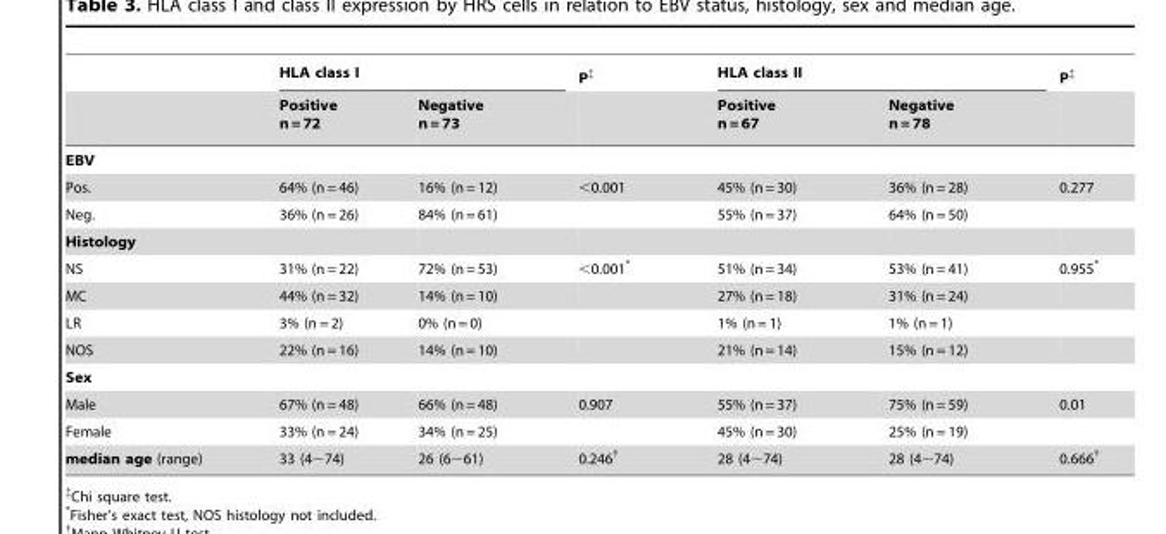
<table><thead><tr><td rowspan="2"></td><td colspan="2">HLA class I</td><td rowspan="2">P‡</td><td colspan="2">HLA class II</td><td rowspan="2">P‡</td></tr><tr><td>Positive n = 72</td><td>Negative n = 73</td><td>Positive n = 67</td><td>Negative n = 78</td></tr></thead><tbody><tr><td colspan="7">EBV</td></tr><tr><td>Pos.</td><td>64% (n = 46)</td><td>16% (n = 12)</td><td>&lt;0.001</td><td>45% (n = 30)</td><td>36% (n = 28)</td><td>0.277</td></tr><tr><td>Neg.</td><td>36% (n = 26)</td><td>84% (n = 61)</td><td></td><td>55% (n = 37)</td><td>64% (n = 50)</td><td></td></tr><tr><td colspan="7">Histology</td></tr><tr><td>NS</td><td>31% (n = 22)</td><td>72% (n = 53)</td><td>&lt;0.001*</td><td>51% (n = 34)</td><td>53% (n = 41)</td><td>0.955*</td></tr><tr><td>MC</td><td>44% (n = 32)</td><td>14% (n = 10)</td><td></td><td>27% (n = 18)</td><td>31% (n = 24)</td><td></td></tr><tr><td>LR</td><td>3% (n = 2)</td><td>0% (n = 0)</td><td></td><td>1% (n = 1)</td><td>1% (n = 1)</td><td></td></tr><tr><td>NOS</td><td>22% (n = 16)</td><td>14% (n = 10)</td><td></td><td>21% (n = 14)</td><td>15% (n = 12)</td><td></td></tr><tr><td colspan="7">Sex</td></tr><tr><td>Male</td><td>67% (n = 48)</td><td>66% (n = 48)</td><td>0.907</td><td>55% (n = 37)</td><td>75% (n = 59)</td><td>0.01</td></tr><tr><td>Female</td><td>33% (n = 24)</td><td>34% (n = 25)</td><td></td><td>45% (n = 30)</td><td>25% (n = 19)</td><td></td></tr><tr><td>median age (range)</td><td>33 (4∼74)</td><td>26 (6∼61)</td><td>0.246†</td><td>28 (4∼74)</td><td>28 (4∼74)</td><td>0.666†</td></tr></tbody></table>